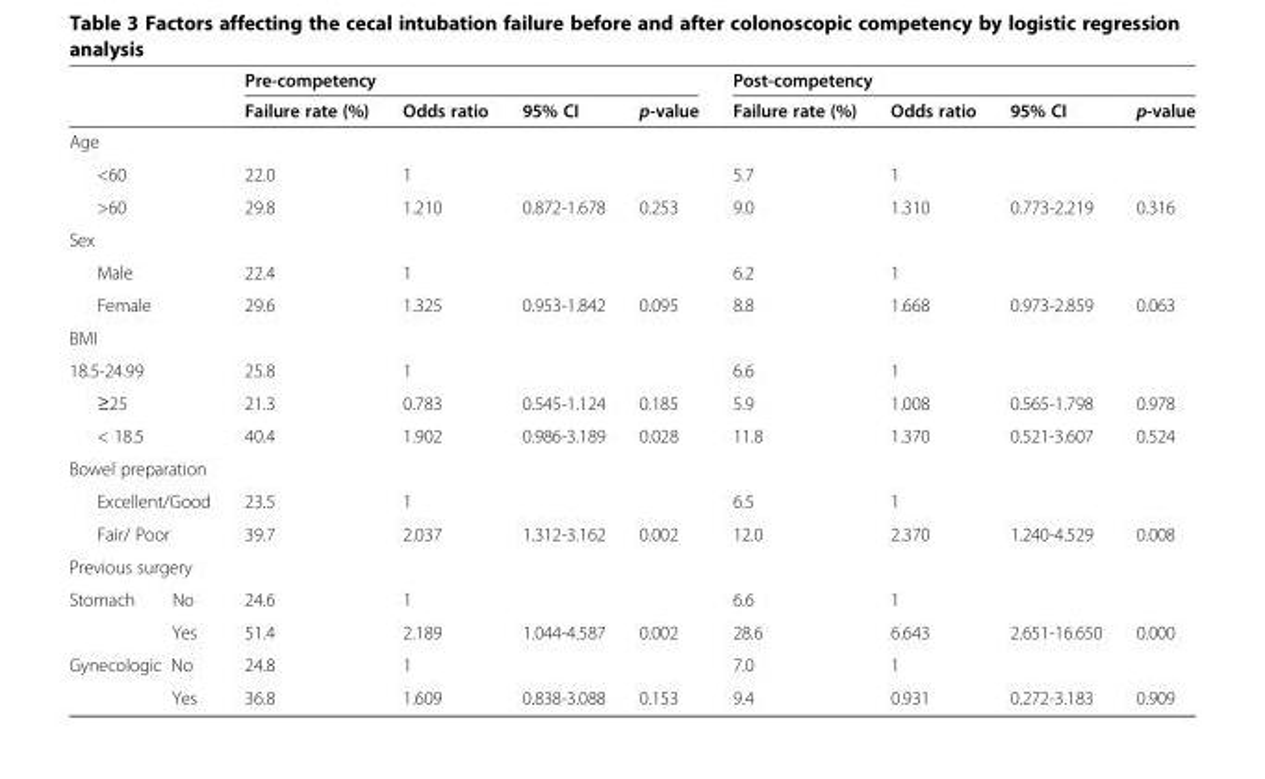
<table><thead><tr><td rowspan="2"></td><td colspan="4">Pre-competency</td><td colspan="4">Post-competency</td></tr><tr><td>Failure rate (%)</td><td>Odds ratio</td><td>95% CI</td><td>p-value</td><td>Failure rate (%)</td><td>Odds ratio</td><td>95% CI</td><td>p-value</td></tr></thead><tbody><tr><td colspan="9">Age</td></tr><tr><td>&lt;60</td><td>22.0</td><td>1</td><td></td><td></td><td>5.7</td><td>1</td><td></td><td></td></tr><tr><td>&gt;60</td><td>29.8</td><td>1.210</td><td>0.872-1.678</td><td>0.253</td><td>9.0</td><td>1.310</td><td>0.773-2.219</td><td>0.316</td></tr><tr><td colspan="9">Sex</td></tr><tr><td>Male</td><td>22.4</td><td>1</td><td></td><td></td><td>6.2</td><td>1</td><td></td><td></td></tr><tr><td>Female</td><td>29.6</td><td>1.325</td><td>0.953-1.842</td><td>0.095</td><td>8.8</td><td>1.668</td><td>0.973-2.859</td><td>0.063</td></tr><tr><td colspan="9">BMI</td></tr><tr><td>18.5-24.99</td><td>25.8</td><td>1</td><td></td><td></td><td>6.6</td><td>1</td><td></td><td></td></tr><tr><td>≥25</td><td>21.3</td><td>0.783</td><td>0.545-1.124</td><td>0.185</td><td>5.9</td><td>1.008</td><td>0.565-1.798</td><td>0.978</td></tr><tr><td>&lt; 18.5</td><td>40.4</td><td>1.902</td><td>0.986-3.189</td><td>0.028</td><td>11.8</td><td>1.370</td><td>0.521-3.607</td><td>0.524</td></tr><tr><td colspan="9">Bowel preparation</td></tr><tr><td>Excellent/Good</td><td>23.5</td><td>1</td><td></td><td></td><td>6.5</td><td>1</td><td></td><td></td></tr><tr><td>Fair/ Poor</td><td>39.7</td><td>2.037</td><td>1.312-3.162</td><td>0.002</td><td>12.0</td><td>2.370</td><td>1.240-4.529</td><td>0.008</td></tr><tr><td colspan="9">Previous surgery</td></tr><tr><td>Stomach No</td><td>24.6</td><td>1</td><td></td><td></td><td>6.6</td><td>1</td><td></td><td></td></tr><tr><td>Yes</td><td>51.4</td><td>2.189</td><td>1.044-4.587</td><td>0.002</td><td>28.6</td><td>6.643</td><td>2.651-16.650</td><td>0.000</td></tr><tr><td>Gynecologic No</td><td>24.8</td><td>1</td><td></td><td></td><td>7.0</td><td>1</td><td></td><td></td></tr><tr><td>Yes</td><td>36.8</td><td>1.609</td><td>0.838-3.088</td><td>0.153</td><td>9.4</td><td>0.931</td><td>0.272-3.183</td><td>0.909</td></tr></tbody></table>